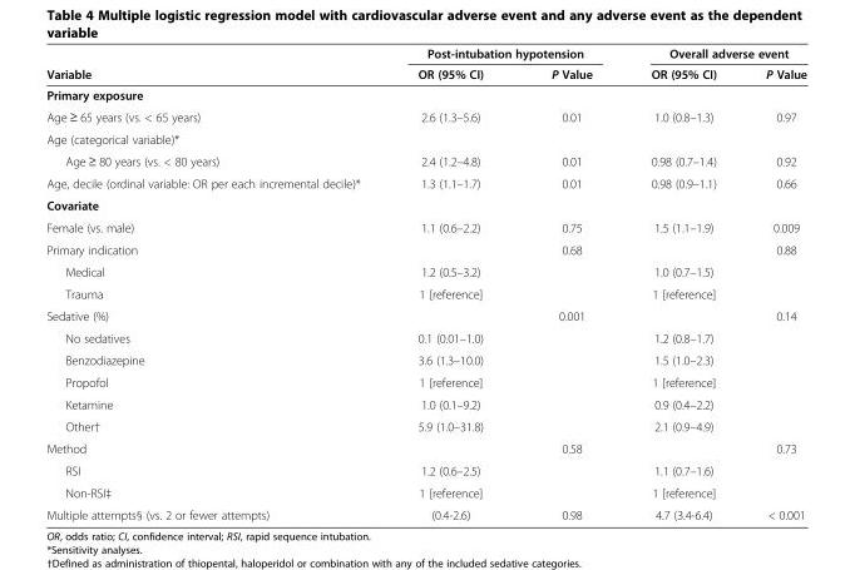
<table><thead><tr><td rowspan="2">Variable</td><td colspan="2">Post-intubation hypotension</td><td colspan="2">Overall adverse event</td></tr><tr><td>OR (95% CI)</td><td>P Value</td><td>OR (95% CI)</td><td>P Value</td></tr></thead><tbody><tr><td colspan="5">Primary exposure</td></tr><tr><td>Age ≥ 65 years (vs. &lt; 65 years)</td><td>2.6 (1.3–5.6)</td><td>0.01</td><td>1.0 (0.8–1.3)</td><td>0.97</td></tr><tr><td colspan="5">Age (categorical variable)*</td></tr><tr><td>Age ≥ 80 years (vs. &lt; 80 years)</td><td>2.4 (1.2–4.8)</td><td>0.01</td><td>0.98 (0.7–1.4)</td><td>0.92</td></tr><tr><td>Age, decile (ordinal variable: OR per each incremental decile)*</td><td>1.3 (1.1–1.7)</td><td>0.01</td><td>0.98 (0.9–1.1)</td><td>0.66</td></tr><tr><td colspan="5">Covariate</td></tr><tr><td>Female (vs. male)</td><td>1.1 (0.6–2.2)</td><td>0.75</td><td>1.5 (1.1–1.9)</td><td>0.009</td></tr><tr><td>Primary indication</td><td></td><td>0.68</td><td></td><td>0.88</td></tr><tr><td>Medical</td><td>1.2 (0.5–3.2)</td><td></td><td>1.0 (0.7–1.5)</td><td></td></tr><tr><td>Trauma</td><td>1 [reference]</td><td></td><td>1 [reference]</td><td></td></tr><tr><td>Sedative (%)</td><td></td><td>0.001</td><td></td><td>0.14</td></tr><tr><td>No sedatives</td><td>0.1 (0.01–1.0)</td><td></td><td>1.2 (0.8–1.7)</td><td></td></tr><tr><td>Benzodiazepine</td><td>3.6 (1.3–10.0)</td><td></td><td>1.5 (1.0–2.3)</td><td></td></tr><tr><td>Propofol</td><td>1 [reference]</td><td></td><td>1 [reference]</td><td></td></tr><tr><td>Ketamine</td><td>1.0 (0.1–9.2)</td><td></td><td>0.9 (0.4–2.2)</td><td></td></tr><tr><td>Other†</td><td>5.9 (1.0–31.8)</td><td></td><td>2.1 (0.9–4.9)</td><td></td></tr><tr><td>Method</td><td></td><td>0.58</td><td></td><td>0.73</td></tr><tr><td>RSI</td><td>1.2 (0.6–2.5)</td><td></td><td>1.1 (0.7–1.6)</td><td></td></tr><tr><td>Non-RSI‡</td><td>1 [reference]</td><td></td><td>1 [reference]</td><td></td></tr><tr><td>Multiple attempts§ (vs. 2 or fewer attempts)</td><td>(0.4-2.6)</td><td>0.98</td><td>4.7 (3.4-6.4)</td><td>&lt; 0.001</td></tr></tbody></table>